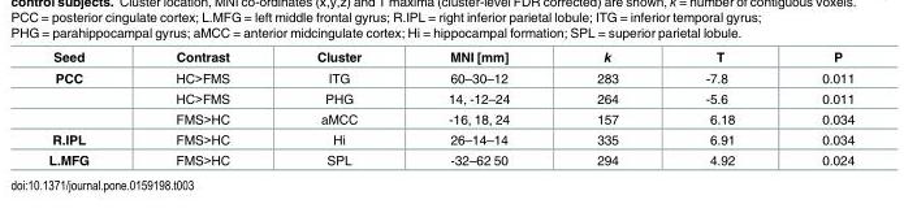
<table><thead><tr><td>Seed</td><td>Contrast</td><td>Cluster</td><td>MNI [mm]</td><td>k</td><td>T</td><td>P</td></tr></thead><tbody><tr><td rowspan="3">PCC</td><td>HC&gt;FMS</td><td>ITG</td><td>60–30–12</td><td>283</td><td>-7.8</td><td>0.011</td></tr><tr><td>HC&gt;FMS</td><td>PHG</td><td>14, -12–24</td><td>264</td><td>-5.6</td><td>0.011</td></tr><tr><td>FMS&gt;HC</td><td>aMCC</td><td>-16, 18, 24</td><td>157</td><td>6.18</td><td>0.034</td></tr><tr><td>R.IPL</td><td>FMS&gt;HC</td><td>Hi</td><td>26–14–14</td><td>335</td><td>6.91</td><td>0.034</td></tr><tr><td>L.MFG</td><td>FMS&gt;HC</td><td>SPL</td><td>-32–62 50</td><td>294</td><td>4.92</td><td>0.024</td></tr></tbody></table>